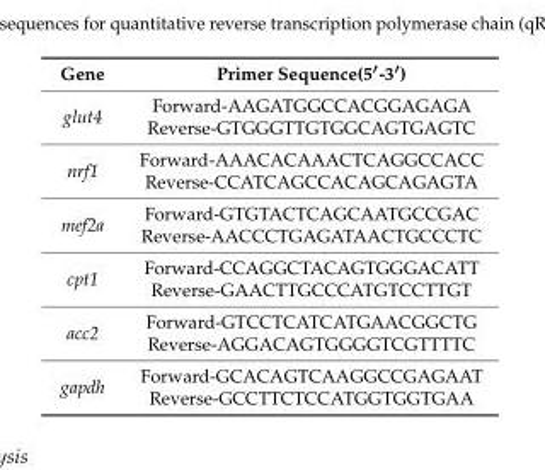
<table><thead><tr><td>Gene</td><td>Primer Sequence(5′-3′)</td></tr></thead><tbody><tr><td>glut4</td><td>Forward-AAGATGGCCACGGAGAGA Reverse-GTGGGTTGTGGCAGTGAGTC</td></tr><tr><td>nrf1</td><td>Forward-AAACACAAACTCAGGCCACC Reverse-CCATCAGCCACAGCAGAGTA</td></tr><tr><td>mef2a</td><td>Forward-GTGTACTCAGCAATGCCGAC Reverse-AACCCTGAGATAACTGCCCTC</td></tr><tr><td>cpt1</td><td>Forward-CCAGGCTACAGTGGGACATT Reverse-GAACTTGCCCATGTCCTTGT</td></tr><tr><td>acc2</td><td>Forward-GTCCTCATCATGAACGGCTG Reverse-AGGACAGTGGGGTCGTTTTC</td></tr><tr><td>gapdh</td><td>Forward-GCACAGTCAAGGCCGAGAAT Reverse-GCCTTCTCCATGGTGGTGAA</td></tr></tbody></table>